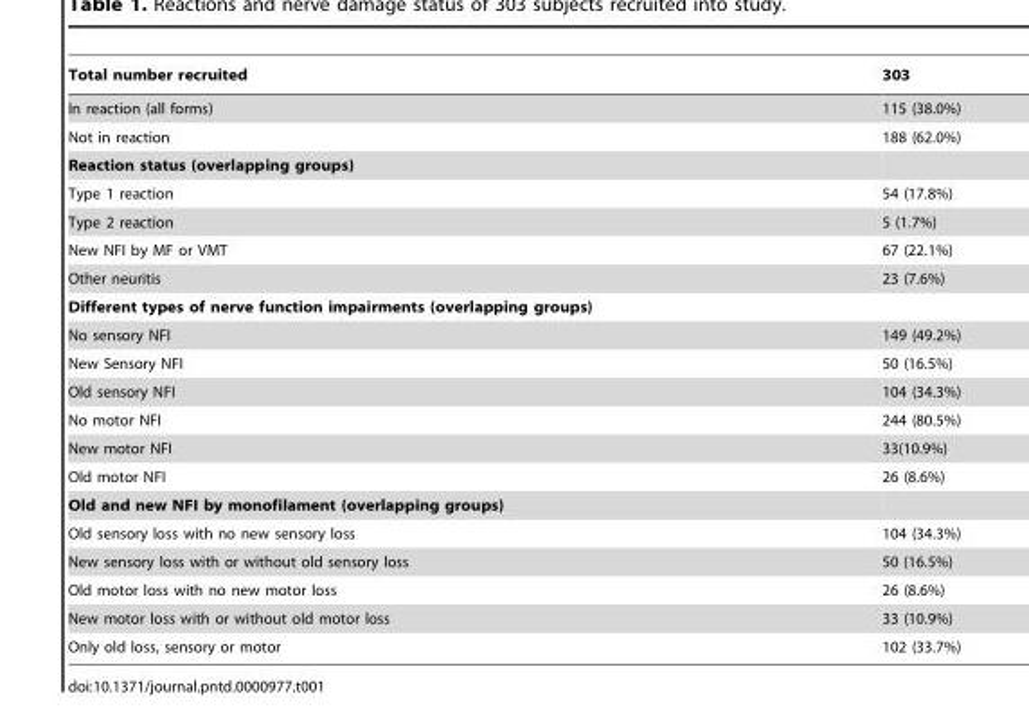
<table><thead><tr><td>Total number recruited</td><td>303</td></tr></thead><tbody><tr><td>In reaction (all forms)</td><td>115 (38.0%)</td></tr><tr><td>Not in reaction</td><td>188 (62.0%)</td></tr><tr><td colspan="2">Reaction status (overlapping groups)</td></tr><tr><td>Type 1 reaction</td><td>54 (17.8%)</td></tr><tr><td>Type 2 reaction</td><td>5 (1.7%)</td></tr><tr><td>New NFI by MF or VMT</td><td>67 (22.1%)</td></tr><tr><td>Other neuritis</td><td>23 (7.6%)</td></tr><tr><td colspan="2">Different types of nerve function impairments (overlapping groups)</td></tr><tr><td>No sensory NFI</td><td>149 (49.2%)</td></tr><tr><td>New Sensory NFI</td><td>50 (16.5%)</td></tr><tr><td>Old sensory NFI</td><td>104 (34.3%)</td></tr><tr><td>No motor NFI</td><td>244 (80.5%)</td></tr><tr><td>New motor NFI</td><td>33(10.9%)</td></tr><tr><td>Old motor NFI</td><td>26 (8.6%)</td></tr><tr><td colspan="2">Old and new NFI by monofilament (overlapping groups)</td></tr><tr><td>Old sensory loss with no new sensory loss</td><td>104 (34.3%)</td></tr><tr><td>New sensory loss with or without old sensory loss</td><td>50 (16.5%)</td></tr><tr><td>Old motor loss with no new motor loss</td><td>26 (8.6%)</td></tr><tr><td>New motor loss with or without old motor loss</td><td>33 (10.9%)</td></tr><tr><td>Only old loss, sensory or motor</td><td>102 (33.7%)</td></tr></tbody></table>